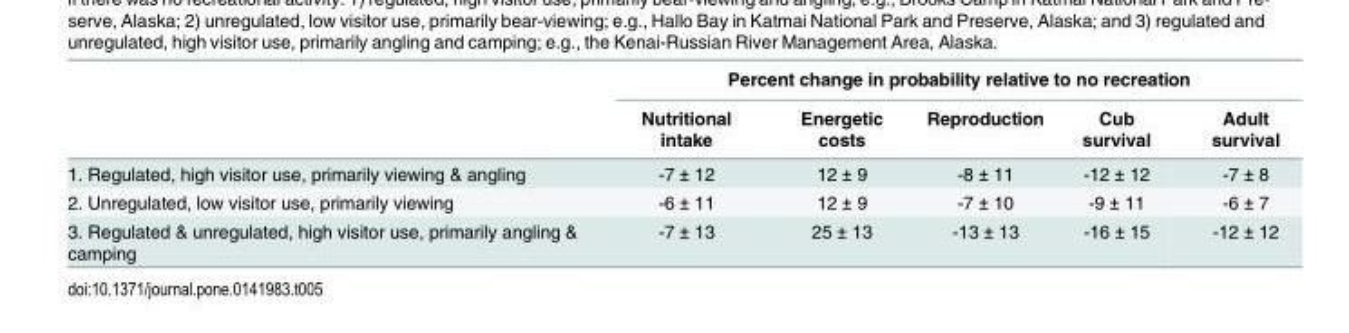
<table><thead><tr><td rowspan="2"></td><td colspan="5">Percent change in probability relative to no recreation</td></tr><tr><td>Nutritional intake</td><td>Energetic costs</td><td>Reproduction</td><td>Cub survival</td><td>Adult survival</td></tr></thead><tbody><tr><td>1. Regulated, high visitor use, primarily viewing &amp; angling</td><td>-7 ± 12</td><td>12 ± 9</td><td>-8 ± 11</td><td>-12 ± 12</td><td>-7 ± 8</td></tr><tr><td>2. Unregulated, low visitor use, primarily viewing</td><td>-6 ± 11</td><td>12 ± 9</td><td>-7 ± 10</td><td>-9 ± 11</td><td>-6 ± 7</td></tr><tr><td>3. Regulated &amp; unregulated, high visitor use, primarily angling &amp; camping</td><td>-7 ± 13</td><td>25 ± 13</td><td>-13 ± 13</td><td>-16 ± 15</td><td>-12 ± 12</td></tr></tbody></table>